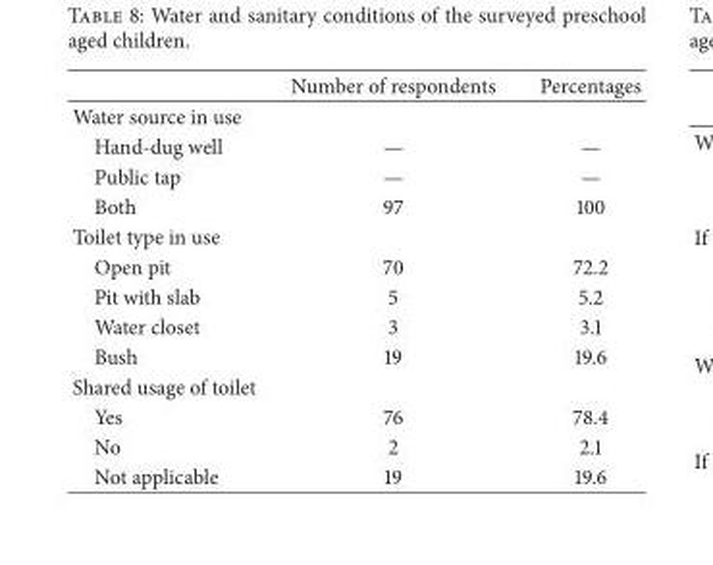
<table><thead><tr><td></td><td>Number of respondents</td><td>Percentages</td></tr></thead><tbody><tr><td colspan="3">Water source in use</td></tr><tr><td>Hand-dug well</td><td>—</td><td>—</td></tr><tr><td>Public tap</td><td>—</td><td>—</td></tr><tr><td>Both</td><td>97</td><td>100</td></tr><tr><td colspan="3">Toilet type in use</td></tr><tr><td>Open pit</td><td>70</td><td>72.2</td></tr><tr><td>Pit with slab</td><td>5</td><td>5.2</td></tr><tr><td>Water closet</td><td>3</td><td>3.1</td></tr><tr><td>Bush</td><td>19</td><td>19.6</td></tr><tr><td colspan="3">Shared usage of toilet</td></tr><tr><td>Yes</td><td>76</td><td>78.4</td></tr><tr><td>No</td><td>2</td><td>2.1</td></tr><tr><td>Not applicable</td><td>19</td><td>19.6</td></tr></tbody></table>